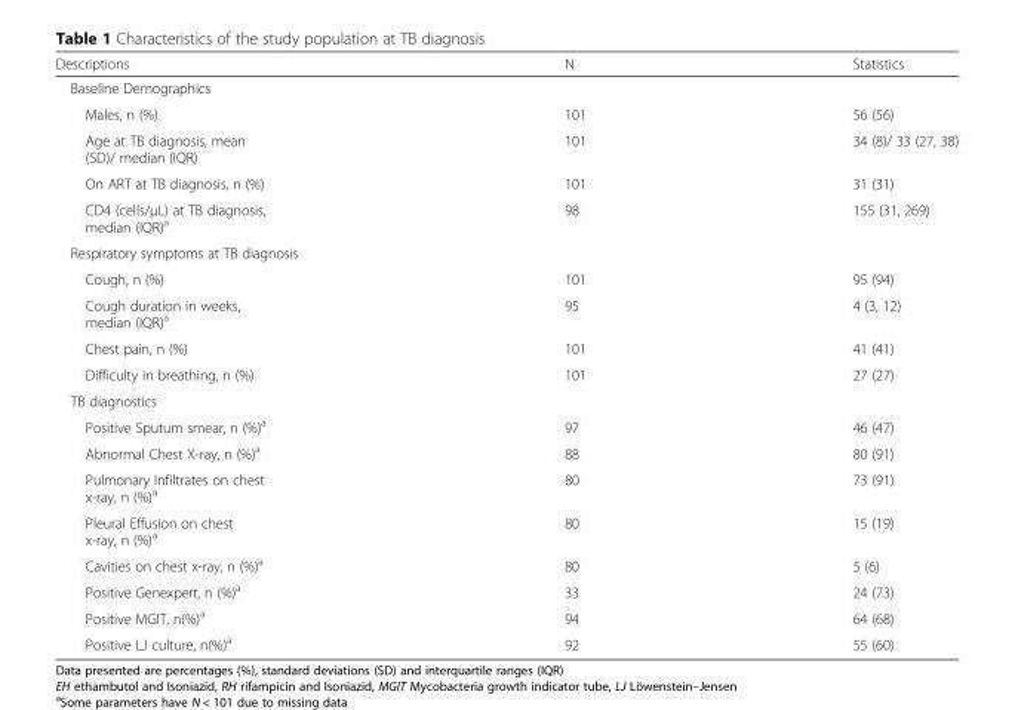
<table><thead><tr><td>Descriptions</td><td>N</td><td>Statistics</td></tr></thead><tbody><tr><td colspan="3">Baseline Demographics</td></tr><tr><td>Males, n (%)</td><td>101</td><td>56 (56)</td></tr><tr><td>Age at TB diagnosis, mean (SD)/ median (IQR)</td><td>101</td><td>34 (8)/ 33 (27, 38)</td></tr><tr><td>On ART at TB diagnosis, n (%)</td><td>101</td><td>31 (31)</td></tr><tr><td>CD4 (cells/μL) at TB diagnosis, median (IQR)<sup>a</sup></td><td>98</td><td>155 (31, 269)</td></tr><tr><td colspan="3">Respiratory symptoms at TB diagnosis</td></tr><tr><td>Cough, n (%)</td><td>101</td><td>95 (94)</td></tr><tr><td>Cough duration in weeks, median (IQR)<sup>a</sup></td><td>95</td><td>4 (3, 12)</td></tr><tr><td>Chest pain, n (%)</td><td>101</td><td>41 (41)</td></tr><tr><td>Difficulty in breathing, n (%)</td><td>101</td><td>27 (27)</td></tr><tr><td colspan="3">TB diagnostics</td></tr><tr><td>Positive Sputum smear, n (%)<sup>a</sup></td><td>97</td><td>46 (47)</td></tr><tr><td>Abnormal Chest X-ray, n (%)<sup>a</sup></td><td>88</td><td>80 (91)</td></tr><tr><td>Pulmonary Infiltrates on chest x-ray, n (%)<sup>a</sup></td><td>80</td><td>73 (91)</td></tr><tr><td>Pleural Effusion on chest x-ray, n (%)<sup>a</sup></td><td>80</td><td>15 (19)</td></tr><tr><td>Cavities on chest x-ray, n (%)<sup>a</sup></td><td>80</td><td>5 (6)</td></tr><tr><td>Positive Genexpert, n (%)<sup>a</sup></td><td>33</td><td>24 (73)</td></tr><tr><td>Positive MGIT, n(%)<sup>a</sup></td><td>94</td><td>64 (68)</td></tr><tr><td>Positive LJ culture, n(%)<sup>a</sup></td><td>92</td><td>55 (60)</td></tr></tbody></table>